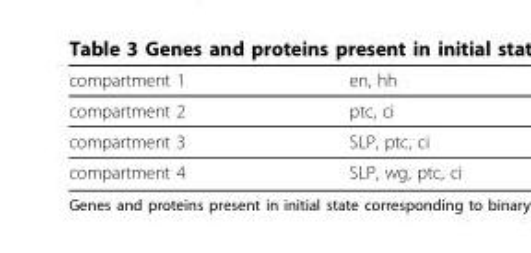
<table><thead><tr><td>compartment 1</td><td>en, hh</td></tr></thead><tbody><tr><td>compartment 2</td><td>ptc, ci</td></tr><tr><td>compartment 3</td><td>SLP, ptc, ci</td></tr><tr><td>compartment 4</td><td>SLP, wg, ptc, ci</td></tr></tbody></table>